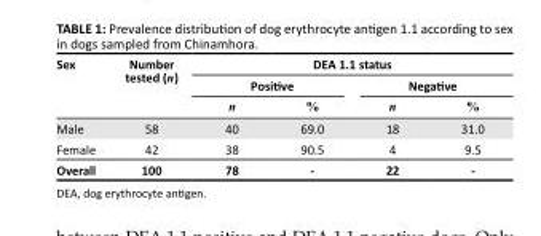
<table><thead><tr><td rowspan="3">Sex</td><td rowspan="3">Number tested (n)</td><td colspan="4">DEA 1.1 status</td></tr><tr><td colspan="2">Positive</td><td colspan="2">Negative</td></tr><tr><td>n</td><td>%</td><td>n</td><td>%</td></tr></thead><tbody><tr><td>Male</td><td>58</td><td>40</td><td>69.0</td><td>18</td><td>31.0</td></tr><tr><td>Female</td><td>42</td><td>38</td><td>90.5</td><td>4</td><td>9.5</td></tr><tr><td>Overall</td><td>100</td><td>78</td><td>-</td><td>22</td><td>-</td></tr></tbody></table>